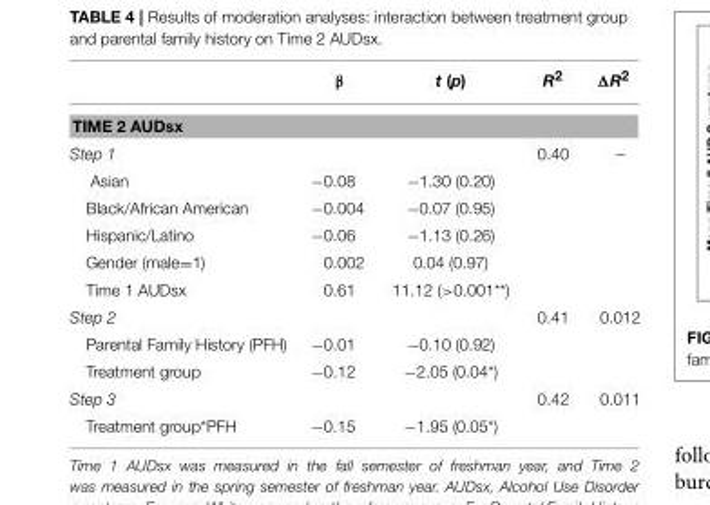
<table><thead><tr><td></td><td>β</td><td>t (p)</td><td>R<sup>2</sup></td><td>ΔR<sup>2</sup></td></tr></thead><tbody><tr><td colspan="5">TIME 2 AUDsx</td></tr><tr><td>Step 1</td><td></td><td></td><td>0.40</td><td>–</td></tr><tr><td>Asian</td><td>−0.08</td><td>−1.30 (0.20)</td><td></td><td></td></tr><tr><td>Black/African American</td><td>−0.004</td><td>−0.07 (0.95)</td><td></td><td></td></tr><tr><td>Hispanic/Latino</td><td>−0.06</td><td>−1.13 (0.26)</td><td></td><td></td></tr><tr><td>Gender (male=1)</td><td>0.002</td><td>0.04 (0.97)</td><td></td><td></td></tr><tr><td>Time 1 AUDsx</td><td>0.61</td><td>11.12 (&gt;0.001**)</td><td></td><td></td></tr><tr><td>Step 2</td><td></td><td></td><td>0.41</td><td>0.012</td></tr><tr><td>Parental Family History (PFH)</td><td>−0.01</td><td>−0.10 (0.92)</td><td></td><td></td></tr><tr><td>Treatment group</td><td>−0.12</td><td>−2.05 (0.04*)</td><td></td><td></td></tr><tr><td>Step 3</td><td></td><td></td><td>0.42</td><td>0.011</td></tr><tr><td>Treatment group*PFH</td><td>−0.15</td><td>−1.95 (0.05*)</td><td></td><td></td></tr></tbody></table>